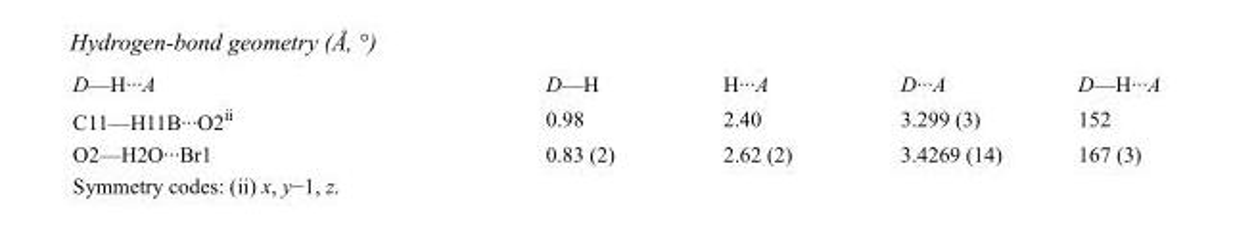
<table><tbody><tr><td>D—H···A</td><td>D—H</td><td>H···A</td><td>D···A</td><td>D—H···A</td></tr><tr><td>C11—H11B···O2<sup>ii</sup></td><td>0.98</td><td>2.40</td><td>3.299 (3)</td><td>152</td></tr><tr><td>O2—H2O···Br1</td><td>0.83 (2)</td><td>2.62 (2)</td><td>3.4269 (14)</td><td>167 (3)</td></tr></tbody></table>